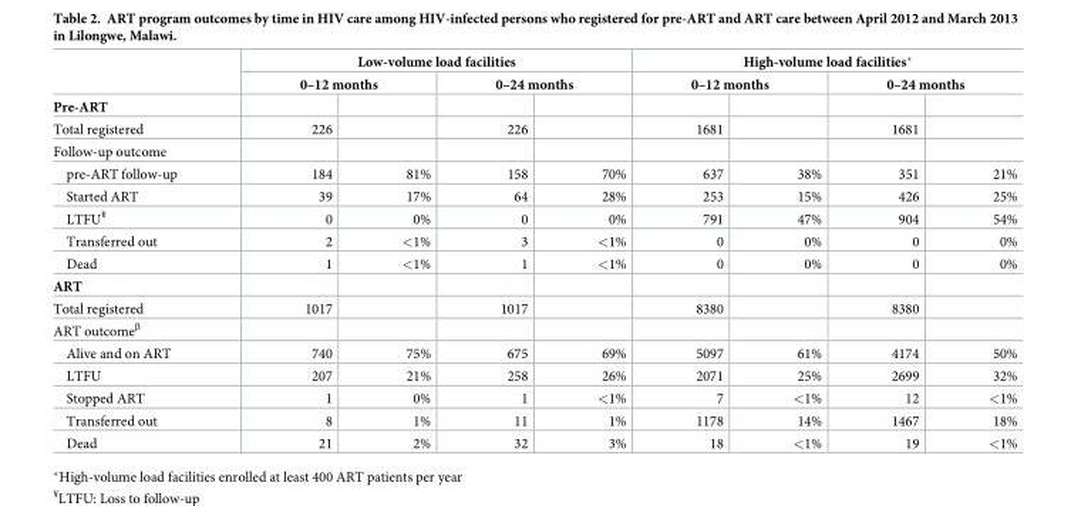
<table><thead><tr><td rowspan="3">Pre-ART</td><td colspan="4">Low-volume load facilities</td><td colspan="4">High-volume load facilities*</td></tr><tr><td colspan="2">0–12 months</td><td colspan="2">0–24 months</td><td colspan="2">0–12 months</td><td colspan="2">0–24 months</td></tr><tr><td></td><td></td><td></td><td></td><td></td><td></td><td></td><td></td></tr></thead><tbody><tr><td>Total registered</td><td>226</td><td></td><td>226</td><td></td><td>1681</td><td></td><td>1681</td><td></td></tr><tr><td colspan="9">Follow-up outcome</td></tr><tr><td>pre-ART follow-up</td><td>184</td><td>81%</td><td>158</td><td>70%</td><td>637</td><td>38%</td><td>351</td><td>21%</td></tr><tr><td>Started ART</td><td>39</td><td>17%</td><td>64</td><td>28%</td><td>253</td><td>15%</td><td>426</td><td>25%</td></tr><tr><td>LTFU<sup>¥</sup></td><td>0</td><td>0%</td><td>0</td><td>0%</td><td>791</td><td>47%</td><td>904</td><td>54%</td></tr><tr><td>Transferred out</td><td>2</td><td>&lt;1%</td><td>3</td><td>&lt;1%</td><td>0</td><td>0%</td><td>0</td><td>0%</td></tr><tr><td>Dead</td><td>1</td><td>&lt;1%</td><td>1</td><td>&lt;1%</td><td>0</td><td>0%</td><td>0</td><td>0%</td></tr><tr><td colspan="9">ART</td></tr><tr><td>Total registered</td><td>1017</td><td></td><td>1017</td><td></td><td>8380</td><td></td><td>8380</td><td></td></tr><tr><td colspan="9">ART outcome<sup>β</sup></td></tr><tr><td>Alive and on ART</td><td>740</td><td>75%</td><td>675</td><td>69%</td><td>5097</td><td>61%</td><td>4174</td><td>50%</td></tr><tr><td>LTFU</td><td>207</td><td>21%</td><td>258</td><td>26%</td><td>2071</td><td>25%</td><td>2699</td><td>32%</td></tr><tr><td>Stopped ART</td><td>1</td><td>0%</td><td>1</td><td>&lt;1%</td><td>7</td><td>&lt;1%</td><td>12</td><td>&lt;1%</td></tr><tr><td>Transferred out</td><td>8</td><td>1%</td><td>11</td><td>1%</td><td>1178</td><td>14%</td><td>1467</td><td>18%</td></tr><tr><td>Dead</td><td>21</td><td>2%</td><td>32</td><td>3%</td><td>18</td><td>&lt;1%</td><td>19</td><td>&lt;1%</td></tr></tbody></table>